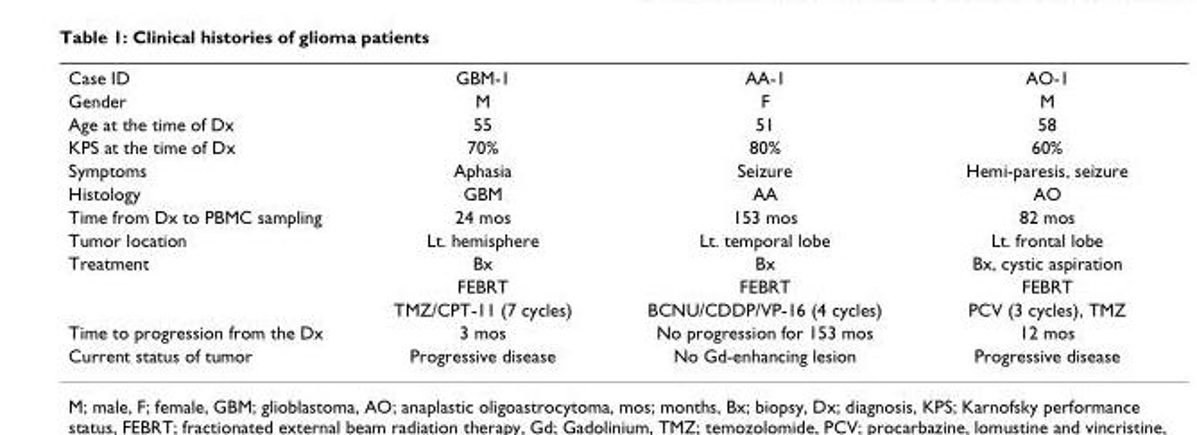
<table><tbody><tr><td>Case ID</td><td>GBM-1</td><td>AA-1</td><td>AO-1</td></tr><tr><td>Gender</td><td>M</td><td>F</td><td>M</td></tr><tr><td>Age at the time of Dx</td><td>55</td><td>51</td><td>58</td></tr><tr><td>KPS at the time of Dx</td><td>70%</td><td>80%</td><td>60%</td></tr><tr><td>Symptoms</td><td>Aphasia</td><td>Seizure</td><td>Hemi-paresis, seizure</td></tr><tr><td>Histology</td><td>GBM</td><td>AA</td><td>AO</td></tr><tr><td>Time from Dx to PBMC sampling</td><td>24 mos</td><td>153 mos</td><td>82 mos</td></tr><tr><td>Tumor location</td><td>Lt. hemisphere</td><td>Lt. temporal lobe</td><td>Lt. frontal lobe</td></tr><tr><td rowspan="3">Treatment</td><td>Bx</td><td>Bx</td><td>Bx, cystic aspiration</td></tr><tr><td>FEBRT</td><td>FEBRT</td><td>FEBRT</td></tr><tr><td>TMZ/CPT-11 (7 cycles)</td><td>BCNU/CDDP/VP-16 (4 cycles)</td><td>PCV (3 cycles), TMZ</td></tr><tr><td>Time to progression from the Dx</td><td>3 mos</td><td>No progression for 153 mos</td><td>12 mos</td></tr><tr><td>Current status of tumor</td><td>Progressive disease</td><td>No Gd-enhancing lesion</td><td>Progressive disease</td></tr></tbody></table>